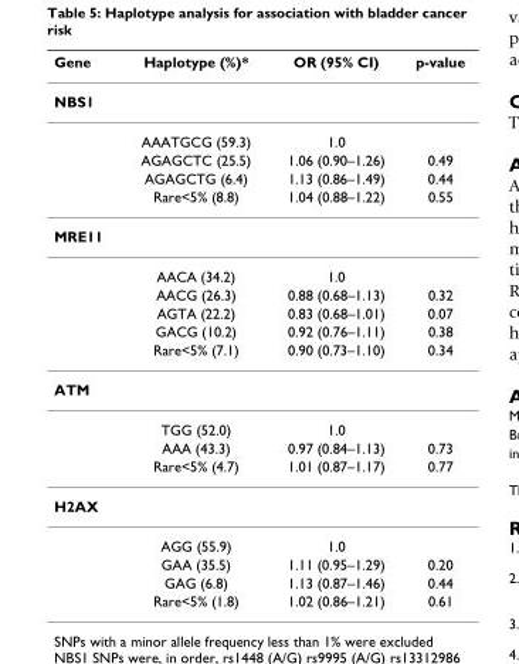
<table><thead><tr><td>Gene</td><td>Haplotype (%)*</td><td>OR (95% CI)</td><td>p-value</td></tr></thead><tbody><tr><td colspan="4">NBS1</td></tr><tr><td></td><td>AAATGCG (59.3)</td><td>1.0</td><td></td></tr><tr><td></td><td>AGAGCTC (25.5)</td><td>1.06 (0.90–1.26)</td><td>0.49</td></tr><tr><td></td><td>AGAGCTG (6.4)</td><td>1.13 (0.86–1.49)</td><td>0.44</td></tr><tr><td></td><td>Rare&lt;5% (8.8)</td><td>1.04 (0.88–1.22)</td><td>0.55</td></tr><tr><td colspan="4">MRE11</td></tr><tr><td></td><td>AACA (34.2)</td><td>1.0</td><td></td></tr><tr><td></td><td>AACG (26.3)</td><td>0.88 (0.68–1.13)</td><td>0.32</td></tr><tr><td></td><td>AGTA (22.2)</td><td>0.83 (0.68–1.01)</td><td>0.07</td></tr><tr><td></td><td>GACG (10.2)</td><td>0.92 (0.76–1.11)</td><td>0.38</td></tr><tr><td></td><td>Rare&lt;5% (7.1)</td><td>0.90 (0.73–1.10)</td><td>0.34</td></tr><tr><td colspan="4">ATM</td></tr><tr><td></td><td>TGG (52.0)</td><td>1.0</td><td></td></tr><tr><td></td><td>AAA (43.3)</td><td>0.97 (0.84–1.13)</td><td>0.73</td></tr><tr><td></td><td>Rare&lt;5% (4.7)</td><td>1.01 (0.87–1.17)</td><td>0.77</td></tr><tr><td colspan="4">H2AX</td></tr><tr><td></td><td>AGG (55.9)</td><td>1.0</td><td></td></tr><tr><td></td><td>GAA (35.5)</td><td>1.11 (0.95–1.29)</td><td>0.20</td></tr><tr><td></td><td>GAG (6.8)</td><td>1.13 (0.87–1.46)</td><td>0.44</td></tr><tr><td></td><td>Rare&lt;5% (1.8)</td><td>1.02 (0.86–1.21)</td><td>0.61</td></tr></tbody></table>